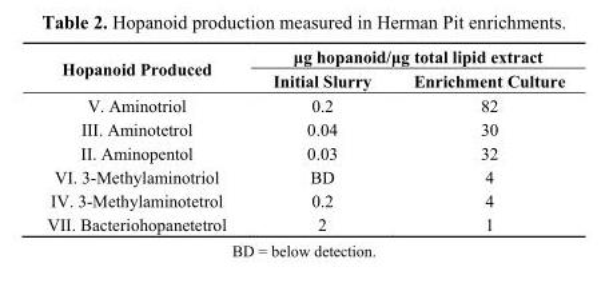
<table><thead><tr><td rowspan="2">Hopanoid Produced</td><td colspan="2">μg hopanoid/μg total lipid extract</td></tr><tr><td>Initial Slurry</td><td>Enrichment Culture</td></tr></thead><tbody><tr><td>V. Aminotriol</td><td>0.2</td><td>82</td></tr><tr><td>III. Aminotetrol</td><td>0.04</td><td>30</td></tr><tr><td>II. Aminopentol</td><td>0.03</td><td>32</td></tr><tr><td>VI. 3-Methylaminotriol</td><td>BD</td><td>4</td></tr><tr><td>IV. 3-Methylaminotetrol</td><td>0.2</td><td>4</td></tr><tr><td>VII. Bacteriohopanetetrol</td><td>2</td><td>1</td></tr></tbody></table>